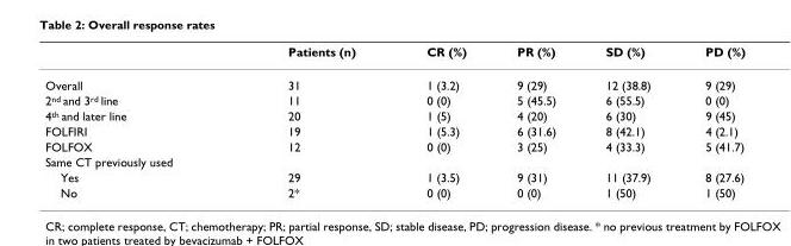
<table><thead><tr><td></td><td>Patients (n)</td><td>CR (%)</td><td>PR (%)</td><td>SD (%)</td><td>PD (%)</td></tr></thead><tbody><tr><td>Overall</td><td>31</td><td>1 (3.2)</td><td>9 (29)</td><td>12 (38.8)</td><td>9 (29)</td></tr><tr><td>2<sup>nd</sup> and 3<sup>rd</sup> line</td><td>11</td><td>0 (0)</td><td>5 (45.5)</td><td>6 (55.5)</td><td>0 (0)</td></tr><tr><td>4<sup>th</sup> and later line</td><td>20</td><td>1 (5)</td><td>4 (20)</td><td>6 (30)</td><td>9 (45)</td></tr><tr><td>FOLFIRI</td><td>19</td><td>1 (5.3)</td><td>6 (31.6)</td><td>8 (42.1)</td><td>4 (2.1)</td></tr><tr><td>FOLFOX</td><td>12</td><td>0 (0)</td><td>3 (25)</td><td>4 (33.3)</td><td>5 (41.7)</td></tr><tr><td colspan="6">Same CT previously used</td></tr><tr><td>Yes</td><td>29</td><td>1 (3.5)</td><td>9 (31)</td><td>11 (37.9)</td><td>8 (27.6)</td></tr><tr><td>No</td><td>2*</td><td>0 (0)</td><td>0 (0)</td><td>1 (50)</td><td>1 (50)</td></tr></tbody></table>